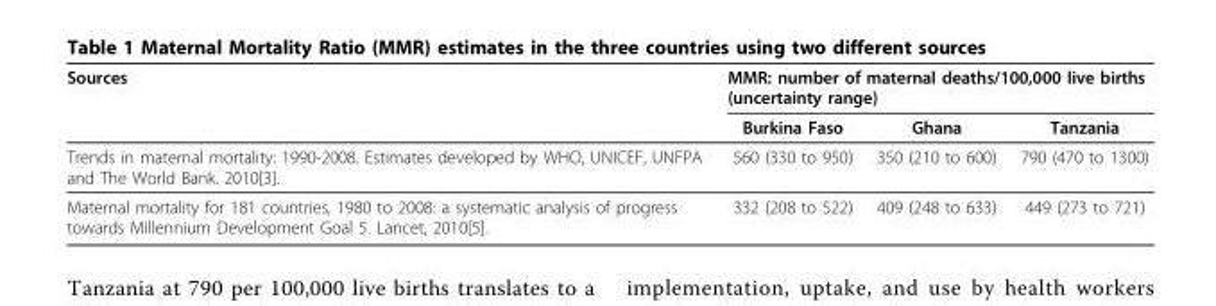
<table><thead><tr><td rowspan="2">Sources</td><td colspan="3">MMR: number of maternal deaths/100,000 live births (uncertainty range)</td></tr><tr><td>Burkina Faso</td><td>Ghana</td><td>Tanzania</td></tr></thead><tbody><tr><td>Trends in maternal mortality: 1990-2008. Estimates developed by WHO, UNICEF, UNFPA and The World Bank. 2010[3].</td><td>560 (330 to 950)</td><td>350 (210 to 600)</td><td>790 (470 to 1300)</td></tr><tr><td>Maternal mortality for 181 countries, 1980 to 2008: a systematic analysis of progress towards Millennium Development Goal 5. Lancet, 2010[5].</td><td>332 (208 to 522)</td><td>409 (248 to 633)</td><td>449 (273 to 721)</td></tr></tbody></table>